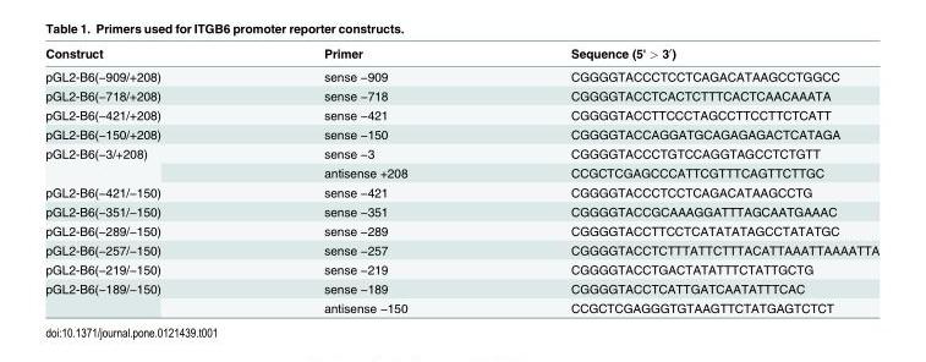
<table><thead><tr><td>Construct</td><td>Primer</td><td>Sequence (5&#x27; &gt; 3′)</td></tr></thead><tbody><tr><td>pGL2-B6(−909/+208)</td><td>sense −909</td><td>CGGGGTACCCTCCTCAGACATAAGCCTGGCC</td></tr><tr><td>pGL2-B6(−718/+208)</td><td>sense −718</td><td>CGGGGTACCTCACTCTTTCACTCAACAAATA</td></tr><tr><td>pGL2-B6(−421/+208)</td><td>sense −421</td><td>CGGGGTACCTTCCCTAGCCTTCCTTCTCATT</td></tr><tr><td>pGL2-B6(−150/+208)</td><td>sense −150</td><td>CGGGGTACCAGGATGCAGAGAGACTCATAGA</td></tr><tr><td rowspan="2">pGL2-B6(−3/+208)</td><td>sense −3</td><td>CGGGGTACCCTGTCCAGGTAGCCTCTGTT</td></tr><tr><td>antisense +208</td><td>CCGCTCGAGCCCATTCGTTTCAGTTCTTGC</td></tr><tr><td>pGL2-B6(−421/−150)</td><td>sense −421</td><td>CGGGGTACCCTCCTCAGACATAAGCCTG</td></tr><tr><td>pGL2-B6(−351/−150)</td><td>sense −351</td><td>CGGGGTACCGCAAAGGATTTAGCAATGAAAC</td></tr><tr><td>pGL2-B6(−289/−150)</td><td>sense −289</td><td>CGGGGTACCTTCCTCATATATAGCCTATATGC</td></tr><tr><td>pGL2-B6(−257/−150)</td><td>sense −257</td><td>CGGGGTACCTCTTTATTCTTTACATTAAATTAAAATTA</td></tr><tr><td>pGL2-B6(−219/−150)</td><td>sense −219</td><td>CGGGGTACCTGACTATATTTCTATTGCTG</td></tr><tr><td rowspan="2">pGL2-B6(−189/−150)</td><td>sense −189</td><td>CGGGGTACCTCATTGATCAATATTTCAC</td></tr><tr><td>antisense −150</td><td>CCGCTCGAGGGTGTAAGTTCTATGAGTCTCT</td></tr></tbody></table>